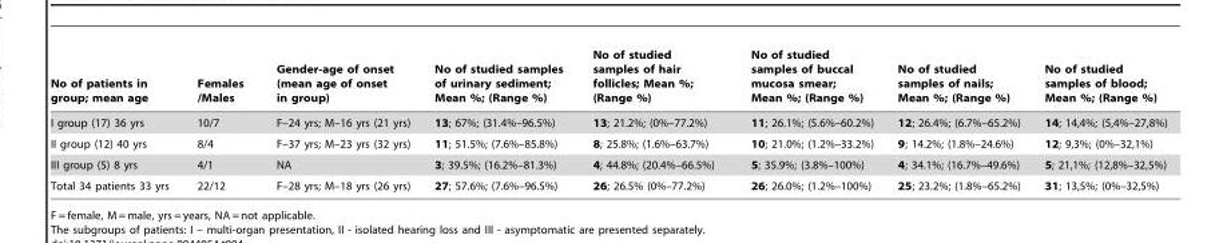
<table><thead><tr><td>No of patients in group; mean age</td><td>Females /Males</td><td>Gender-age of onset (mean age of onset in group)</td><td>No of studied samples of urinary sediment; Mean %; (Range %)</td><td>No of studied samples of hair follicles; Mean %; (Range %)</td><td>No of studied samples of buccal mucosa smear; Mean %; (Range %)</td><td>No of studied samples of nails; Mean %; (Range %)</td><td>No of studied samples of blood; Mean %; (Range %)</td></tr></thead><tbody><tr><td>I group (17) 36 yrs</td><td>10/7</td><td>F–24 yrs; M–16 yrs (21 yrs)</td><td>13; 67%; (31.4%–96.5%)</td><td>13; 21.2%; (0%–77.2%)</td><td>11; 26.1%; (5.6%–60.2%)</td><td>12; 26.4%; (6.7%–65.2%)</td><td>14; 14,4%; (5,4%–27,8%)</td></tr><tr><td>II group (12) 40 yrs</td><td>8/4</td><td>F–37 yrs; M–23 yrs (32 yrs)</td><td>11; 51.5%; (7.6%–85.8%)</td><td>8; 25.8%; (1.6%–63.7%)</td><td>10; 21.0%; (1.2%–33.2%)</td><td>9; 14.2%; (1.8%–24.6%)</td><td>12; 9,3%; (0%–32,1%)</td></tr><tr><td>III group (5) 8 yrs</td><td>4/1</td><td>NA</td><td>3; 39.5%; (16.2%–81.3%)</td><td>4; 44.8%; (20.4%–66.5%)</td><td>5; 35.9%; (3.8%–100%)</td><td>4; 34.1%; (16.7%–49.6%)</td><td>5; 21,1%; (12,8%–32,5%)</td></tr><tr><td>Total 34 patients 33 yrs</td><td>22/12</td><td>F–28 yrs; M–18 yrs (26 yrs)</td><td>27; 57.6%; (7.6%–96.5%)</td><td>26; 26.5% (0%–77.2%)</td><td>26; 26.0%; (1.2%–100%)</td><td>25; 23.2%; (1.8%–65.2%)</td><td>31; 13,5%; (0%–32,5%)</td></tr></tbody></table>